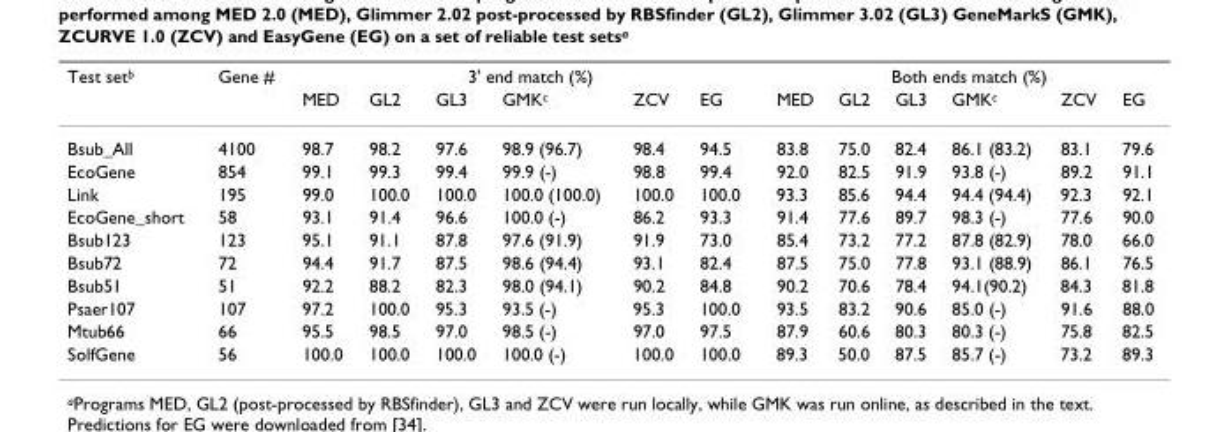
<table><thead><tr><td rowspan="2">Test set<sup>b</sup></td><td rowspan="2">Gene #</td><td colspan="6">3&#x27; end match (%)</td><td colspan="6">Both ends match (%)</td></tr><tr><td>MED</td><td>GL2</td><td>GL3</td><td>GMK<sup>c</sup></td><td>ZCV</td><td>EG</td><td>MED</td><td>GL2</td><td>GL3</td><td>GMK<sup>c</sup></td><td>ZCV</td><td>EG</td></tr></thead><tbody><tr><td>Bsub_All</td><td>4100</td><td>98.7</td><td>98.2</td><td>97.6</td><td>98.9 (96.7)</td><td>98.4</td><td>94.5</td><td>83.8</td><td>75.0</td><td>82.4</td><td>86.1 (83.2)</td><td>83.1</td><td>79.6</td></tr><tr><td>EcoGene</td><td>854</td><td>99.1</td><td>99.3</td><td>99.4</td><td>99.9 (-)</td><td>98.8</td><td>99.4</td><td>92.0</td><td>82.5</td><td>91.9</td><td>93.8 (-)</td><td>89.2</td><td>91.1</td></tr><tr><td>Link</td><td>195</td><td>99.0</td><td>100.0</td><td>100.0</td><td>100.0 (100.0)</td><td>100.0</td><td>100.0</td><td>93.3</td><td>85.6</td><td>94.4</td><td>94.4 (94.4)</td><td>92.3</td><td>92.1</td></tr><tr><td>EcoGene_short</td><td>58</td><td>93.1</td><td>91.4</td><td>96.6</td><td>100.0 (-)</td><td>86.2</td><td>93.3</td><td>91.4</td><td>77.6</td><td>89.7</td><td>98.3 (-)</td><td>77.6</td><td>90.0</td></tr><tr><td>Bsub123</td><td>123</td><td>95.1</td><td>91.1</td><td>87.8</td><td>97.6 (91.9)</td><td>91.9</td><td>73.0</td><td>85.4</td><td>73.2</td><td>77.2</td><td>87.8 (82.9)</td><td>78.0</td><td>66.0</td></tr><tr><td>Bsub72</td><td>72</td><td>94.4</td><td>91.7</td><td>87.5</td><td>98.6 (94.4)</td><td>93.1</td><td>82.4</td><td>87.5</td><td>75.0</td><td>77.8</td><td>93.1 (88.9)</td><td>86.1</td><td>76.5</td></tr><tr><td>Bsub51</td><td>51</td><td>92.2</td><td>88.2</td><td>82.3</td><td>98.0 (94.1)</td><td>90.2</td><td>84.8</td><td>90.2</td><td>70.6</td><td>78.4</td><td>94.1(90.2)</td><td>84.3</td><td>81.8</td></tr><tr><td>Psaer107</td><td>107</td><td>97.2</td><td>100.0</td><td>95.3</td><td>93.5 (-)</td><td>95.3</td><td>100.0</td><td>93.5</td><td>83.2</td><td>90.6</td><td>85.0 (-)</td><td>91.6</td><td>88.0</td></tr><tr><td>Mtub66</td><td>66</td><td>95.5</td><td>98.5</td><td>97.0</td><td>98.5 (-)</td><td>97.0</td><td>97.5</td><td>87.9</td><td>60.6</td><td>80.3</td><td>80.3 (-)</td><td>75.8</td><td>82.5</td></tr><tr><td>SolfGene</td><td>56</td><td>100.0</td><td>100.0</td><td>100.0</td><td>100.0 (-)</td><td>100.0</td><td>100.0</td><td>89.3</td><td>50.0</td><td>87.5</td><td>85.7 (-)</td><td>73.2</td><td>89.3</td></tr></tbody></table>